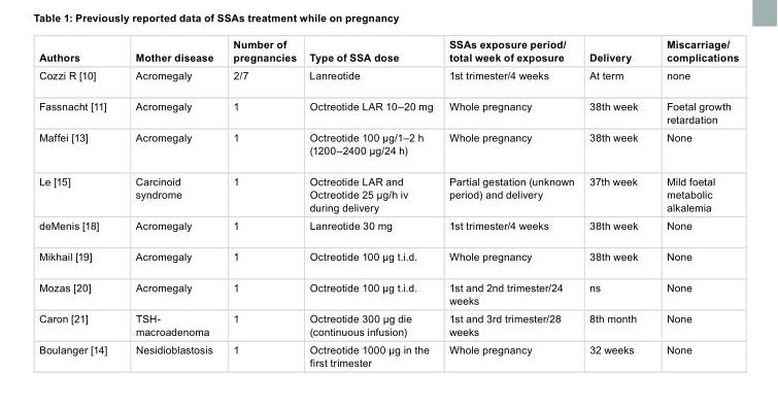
<table><thead><tr><td>Authors</td><td>Mother disease</td><td>Number of pregnancies</td><td>Type of SSA dose</td><td>SSAs exposure period/ total week of exposure</td><td>Delivery</td><td>Miscarriage/ complications</td></tr></thead><tbody><tr><td>Cozzi R [10]</td><td>Acromegaly</td><td>2/7</td><td>Lanreotide</td><td>1st trimester/4 weeks</td><td>At term</td><td>none</td></tr><tr><td>Fassnacht [11]</td><td>Acromegaly</td><td>1</td><td>Octreotide LAR 10–20 mg</td><td>Whole pregnancy</td><td>38th week</td><td>Foetal growth retardation</td></tr><tr><td>Maffei [13]</td><td>Acromegaly</td><td>1</td><td>Octreotide 100 µg/1–2 h (1200–2400 µg/24 h)</td><td>Whole pregnancy</td><td>38th week</td><td>None</td></tr><tr><td>Le [15]</td><td>Carcinoid syndrome</td><td>1</td><td>Octreotide LAR and Octreotide 25 µg/h iv during delivery</td><td>Partial gestation (unknown period) and delivery</td><td>37th week</td><td>Mild foetal metabolic alkalemia</td></tr><tr><td>deMenis [18]</td><td>Acromegaly</td><td>1</td><td>Lanreotide 30 mg</td><td>1st trimester/4 weeks</td><td>38th week</td><td>None</td></tr><tr><td>Mikhail [19]</td><td>Acromegaly</td><td>1</td><td>Octreotide 100 µg t.i.d.</td><td>Whole pregnancy</td><td>38th week</td><td>None</td></tr><tr><td>Mozas [20]</td><td>Acromegaly</td><td>1</td><td>Octreotide 100 µg t.i.d.</td><td>1st and 2nd trimester/24 weeks</td><td>ns</td><td>None</td></tr><tr><td>Caron [21]</td><td>TSH- macroadenoma</td><td>1</td><td>Octreotide 300 µg die (continuous infusion)</td><td>1st and 3rd trimester/28 weeks</td><td>8th month</td><td>None</td></tr><tr><td>Boulanger [14]</td><td>Nesidioblastosis</td><td>1</td><td>Octreotide 1000 µg in the first trimester</td><td>Whole pregnancy</td><td>32 weeks</td><td>None</td></tr></tbody></table>